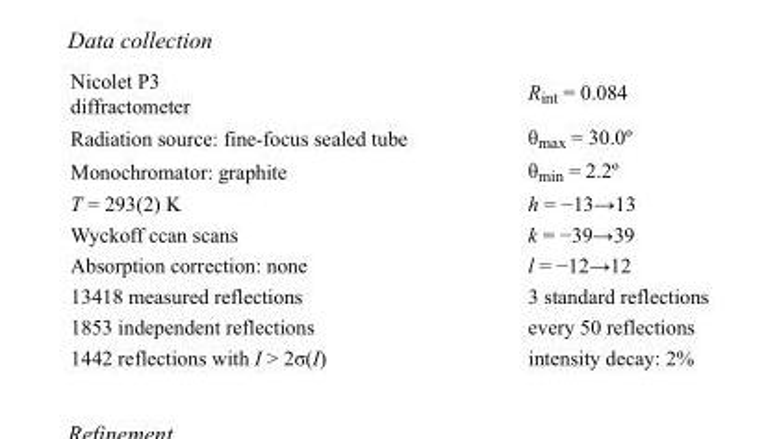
<table><tbody><tr><td>Nicolet P3 diffractometer</td><td>R<sub>int</sub> = 0.084</td></tr><tr><td>Radiation source: fine-focus sealed tube</td><td>θ<sub>max</sub> = 30.0º</td></tr><tr><td>Monochromator: graphite</td><td>θ<sub>min</sub> = 2.2º</td></tr><tr><td>T = 293(2) K</td><td>h = −13→13</td></tr><tr><td>Wyckoff ccan scans</td><td>k = −39→39</td></tr><tr><td>Absorption correction: none</td><td>l = −12→12</td></tr><tr><td>13418 measured reflections</td><td>3 standard reflections</td></tr><tr><td>1853 independent reflections</td><td>every 50 reflections</td></tr><tr><td>1442 reflections with I &gt; 2σ(I)</td><td>intensity decay: 2%</td></tr></tbody></table>